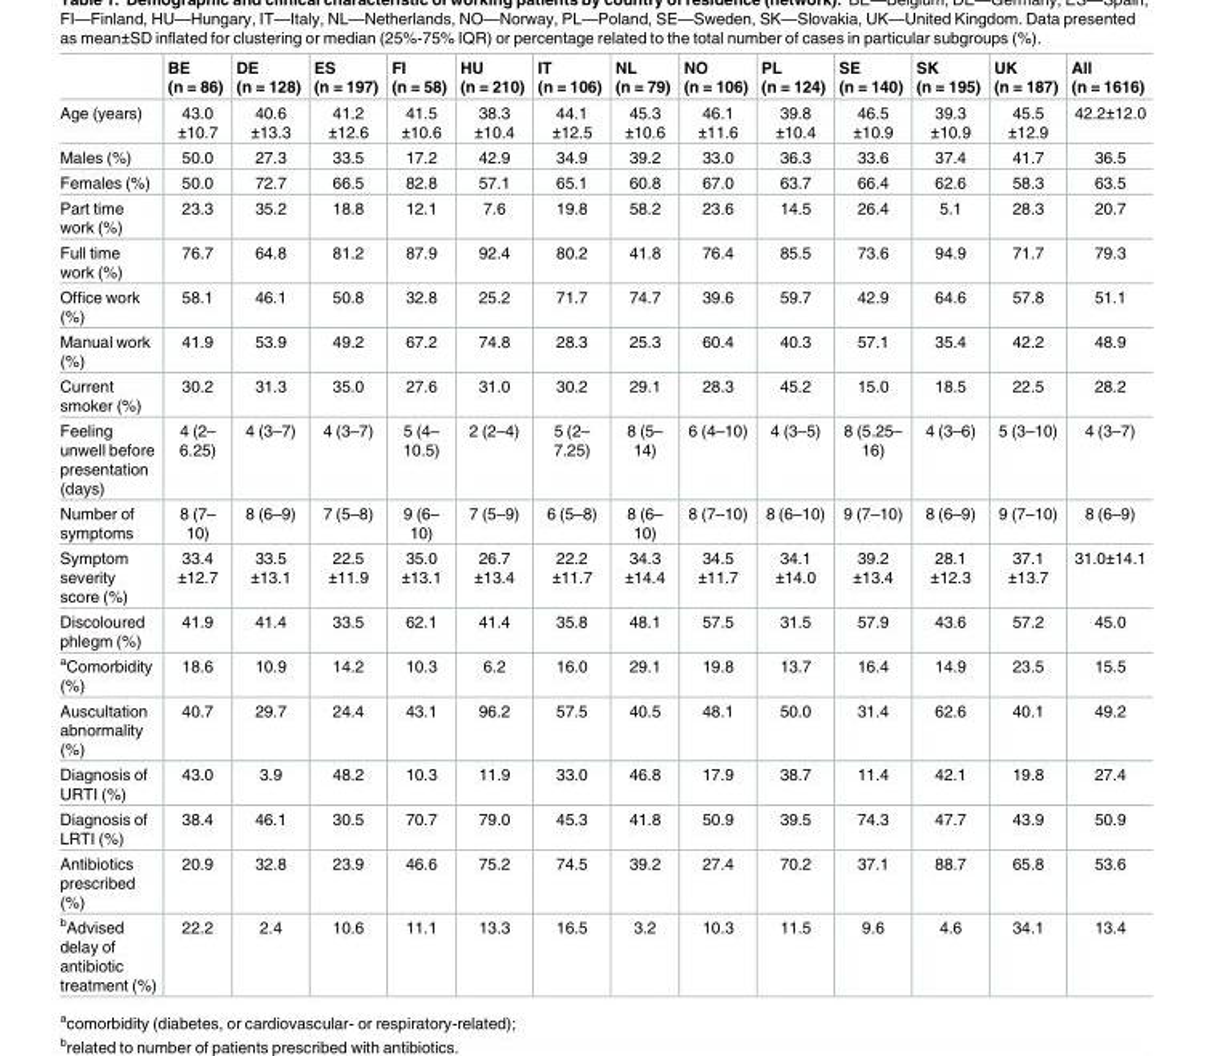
<table><thead><tr><td></td><td>BE (n = 86)</td><td>DE (n = 128)</td><td>ES (n = 197)</td><td>FI (n = 58)</td><td>HU (n = 210)</td><td>IT (n = 106)</td><td>NL (n = 79)</td><td>NO (n = 106)</td><td>PL (n = 124)</td><td>SE (n = 140)</td><td>SK (n = 195)</td><td>UK (n = 187)</td><td>All (n = 1616)</td></tr></thead><tbody><tr><td>Age (years)</td><td>43.0 ±10.7</td><td>40.6 ±13.3</td><td>41.2 ±12.6</td><td>41.5 ±10.6</td><td>38.3 ±10.4</td><td>44.1 ±12.5</td><td>45.3 ±10.6</td><td>46.1 ±11.6</td><td>39.8 ±10.4</td><td>46.5 ±10.9</td><td>39.3 ±10.9</td><td>45.5 ±12.9</td><td>42.2±12.0</td></tr><tr><td>Males (%)</td><td>50.0</td><td>27.3</td><td>33.5</td><td>17.2</td><td>42.9</td><td>34.9</td><td>39.2</td><td>33.0</td><td>36.3</td><td>33.6</td><td>37.4</td><td>41.7</td><td>36.5</td></tr><tr><td>Females (%)</td><td>50.0</td><td>72.7</td><td>66.5</td><td>82.8</td><td>57.1</td><td>65.1</td><td>60.8</td><td>67.0</td><td>63.7</td><td>66.4</td><td>62.6</td><td>58.3</td><td>63.5</td></tr><tr><td>Part time work (%)</td><td>23.3</td><td>35.2</td><td>18.8</td><td>12.1</td><td>7.6</td><td>19.8</td><td>58.2</td><td>23.6</td><td>14.5</td><td>26.4</td><td>5.1</td><td>28.3</td><td>20.7</td></tr><tr><td>Full time work (%)</td><td>76.7</td><td>64.8</td><td>81.2</td><td>87.9</td><td>92.4</td><td>80.2</td><td>41.8</td><td>76.4</td><td>85.5</td><td>73.6</td><td>94.9</td><td>71.7</td><td>79.3</td></tr><tr><td>Office work (%)</td><td>58.1</td><td>46.1</td><td>50.8</td><td>32.8</td><td>25.2</td><td>71.7</td><td>74.7</td><td>39.6</td><td>59.7</td><td>42.9</td><td>64.6</td><td>57.8</td><td>51.1</td></tr><tr><td>Manual work (%)</td><td>41.9</td><td>53.9</td><td>49.2</td><td>67.2</td><td>74.8</td><td>28.3</td><td>25.3</td><td>60.4</td><td>40.3</td><td>57.1</td><td>35.4</td><td>42.2</td><td>48.9</td></tr><tr><td>Current smoker (%)</td><td>30.2</td><td>31.3</td><td>35.0</td><td>27.6</td><td>31.0</td><td>30.2</td><td>29.1</td><td>28.3</td><td>45.2</td><td>15.0</td><td>18.5</td><td>22.5</td><td>28.2</td></tr><tr><td>Feeling unwell before presentation (days)</td><td>4 (2– 6.25)</td><td>4 (3–7)</td><td>4 (3–7)</td><td>5 (4– 10.5)</td><td>2 (2–4)</td><td>5 (2– 7.25)</td><td>8 (5– 14)</td><td>6 (4–10)</td><td>4 (3–5)</td><td>8 (5.25– 16)</td><td>4 (3–6)</td><td>5 (3–10)</td><td>4 (3–7)</td></tr><tr><td>Number of symptoms</td><td>8 (7– 10)</td><td>8 (6–9)</td><td>7 (5–8)</td><td>9 (6– 10)</td><td>7 (5–9)</td><td>6 (5–8)</td><td>8 (6– 10)</td><td>8 (7–10)</td><td>8 (6–10)</td><td>9 (7–10)</td><td>8 (6–9)</td><td>9 (7–10)</td><td>8 (6–9)</td></tr><tr><td>Symptom severity score (%)</td><td>33.4 ±12.7</td><td>33.5 ±13.1</td><td>22.5 ±11.9</td><td>35.0 ±13.1</td><td>26.7 ±13.4</td><td>22.2 ±11.7</td><td>34.3 ±14.4</td><td>34.5 ±11.7</td><td>34.1 ±14.0</td><td>39.2 ±13.4</td><td>28.1 ±12.3</td><td>37.1 ±13.7</td><td>31.0±14.1</td></tr><tr><td>Discoloured phlegm (%)</td><td>41.9</td><td>41.4</td><td>33.5</td><td>62.1</td><td>41.4</td><td>35.8</td><td>48.1</td><td>57.5</td><td>31.5</td><td>57.9</td><td>43.6</td><td>57.2</td><td>45.0</td></tr><tr><td><sup>a</sup>Comorbidity (%)</td><td>18.6</td><td>10.9</td><td>14.2</td><td>10.3</td><td>6.2</td><td>16.0</td><td>29.1</td><td>19.8</td><td>13.7</td><td>16.4</td><td>14.9</td><td>23.5</td><td>15.5</td></tr><tr><td>Auscultation abnormality (%)</td><td>40.7</td><td>29.7</td><td>24.4</td><td>43.1</td><td>96.2</td><td>57.5</td><td>40.5</td><td>48.1</td><td>50.0</td><td>31.4</td><td>62.6</td><td>40.1</td><td>49.2</td></tr><tr><td>Diagnosis of URTI (%)</td><td>43.0</td><td>3.9</td><td>48.2</td><td>10.3</td><td>11.9</td><td>33.0</td><td>46.8</td><td>17.9</td><td>38.7</td><td>11.4</td><td>42.1</td><td>19.8</td><td>27.4</td></tr><tr><td>Diagnosis of LRTI (%)</td><td>38.4</td><td>46.1</td><td>30.5</td><td>70.7</td><td>79.0</td><td>45.3</td><td>41.8</td><td>50.9</td><td>39.5</td><td>74.3</td><td>47.7</td><td>43.9</td><td>50.9</td></tr><tr><td>Antibiotics prescribed (%)</td><td>20.9</td><td>32.8</td><td>23.9</td><td>46.6</td><td>75.2</td><td>74.5</td><td>39.2</td><td>27.4</td><td>70.2</td><td>37.1</td><td>88.7</td><td>65.8</td><td>53.6</td></tr><tr><td><sup>b</sup>Advised delay of antibiotic treatment (%)</td><td>22.2</td><td>2.4</td><td>10.6</td><td>11.1</td><td>13.3</td><td>16.5</td><td>3.2</td><td>10.3</td><td>11.5</td><td>9.6</td><td>4.6</td><td>34.1</td><td>13.4</td></tr></tbody></table>